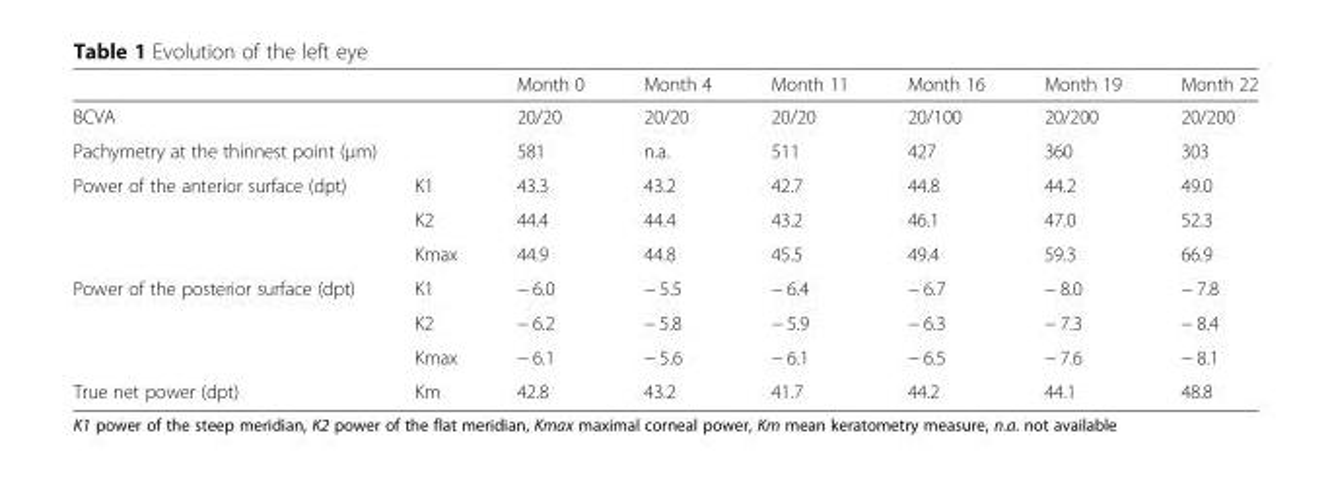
<table><thead><tr><td></td><td></td><td>Month 0</td><td>Month 4</td><td>Month 11</td><td>Month 16</td><td>Month 19</td><td>Month 22</td></tr></thead><tbody><tr><td colspan="2">BCVA</td><td>20/20</td><td>20/20</td><td>20/20</td><td>20/100</td><td>20/200</td><td>20/200</td></tr><tr><td colspan="2">Pachymetry at the thinnest point (μm)</td><td>581</td><td>n.a.</td><td>511</td><td>427</td><td>360</td><td>303</td></tr><tr><td rowspan="3">Power of the anterior surface (dpt)</td><td>K1</td><td>43.3</td><td>43.2</td><td>42.7</td><td>44.8</td><td>44.2</td><td>49.0</td></tr><tr><td>K2</td><td>44.4</td><td>44.4</td><td>43.2</td><td>46.1</td><td>47.0</td><td>52.3</td></tr><tr><td>Kmax</td><td>44.9</td><td>44.8</td><td>45.5</td><td>49.4</td><td>59.3</td><td>66.9</td></tr><tr><td rowspan="3">Power of the posterior surface (dpt)</td><td>K1</td><td>− 6.0</td><td>− 5.5</td><td>− 6.4</td><td>− 6.7</td><td>− 8.0</td><td>− 7.8</td></tr><tr><td>K2</td><td>− 6.2</td><td>− 5.8</td><td>− 5.9</td><td>− 6.3</td><td>− 7.3</td><td>− 8.4</td></tr><tr><td>Kmax</td><td>− 6.1</td><td>− 5.6</td><td>− 6.1</td><td>− 6.5</td><td>− 7.6</td><td>− 8.1</td></tr><tr><td>True net power (dpt)</td><td>Km</td><td>42.8</td><td>43.2</td><td>41.7</td><td>44.2</td><td>44.1</td><td>48.8</td></tr></tbody></table>